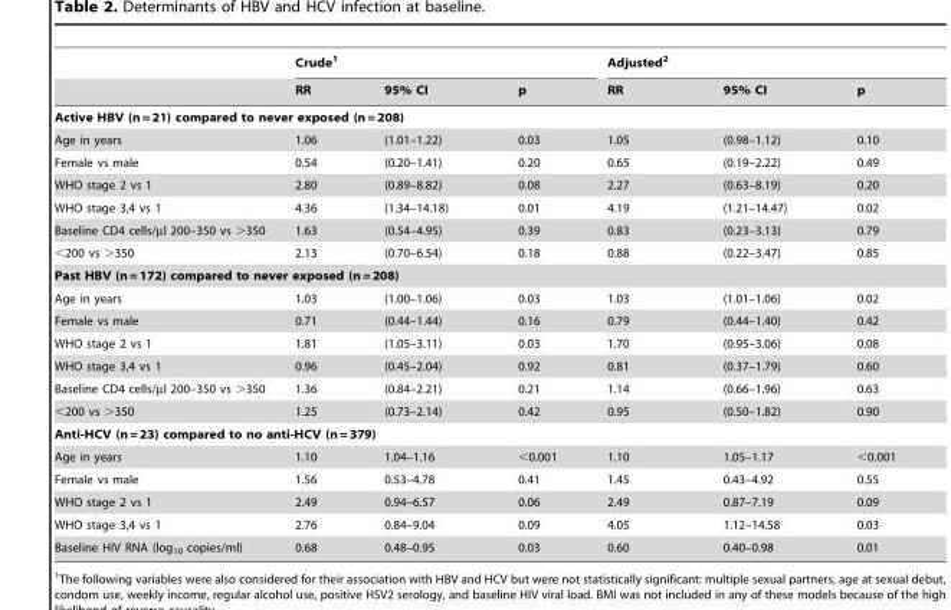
<table><thead><tr><td rowspan="2"></td><td colspan="3">Crude<sup>1</sup></td><td colspan="3">Adjusted<sup>2</sup></td></tr><tr><td>RR</td><td>95% CI</td><td>p</td><td>RR</td><td>95% CI</td><td>p</td></tr></thead><tbody><tr><td colspan="7">Active HBV (n = 21) compared to never exposed (n = 208)</td></tr><tr><td>Age in years</td><td>1.06</td><td>(1.01–1.22)</td><td>0.03</td><td>1.05</td><td>(0.98–1.12)</td><td>0.10</td></tr><tr><td>Female vs male</td><td>0.54</td><td>(0.20–1.41)</td><td>0.20</td><td>0.65</td><td>(0.19–2.22)</td><td>0.49</td></tr><tr><td>WHO stage 2 vs 1</td><td>2.80</td><td>(0.89–8.82)</td><td>0.08</td><td>2.27</td><td>(0.63–8.19)</td><td>0.20</td></tr><tr><td>WHO stage 3,4 vs 1</td><td>4.36</td><td>(1.34–14.18)</td><td>0.01</td><td>4.19</td><td>(1.21–14.47)</td><td>0.02</td></tr><tr><td>Baseline CD4 cells/µl 200–350 vs &gt;350</td><td>1.63</td><td>(0.54–4.95)</td><td>0.39</td><td>0.83</td><td>(0.23–3.13)</td><td>0.79</td></tr><tr><td>&lt;200 vs &gt;350</td><td>2.13</td><td>(0.70–6.54)</td><td>0.18</td><td>0.88</td><td>(0.22–3.47)</td><td>0.85</td></tr><tr><td colspan="7">Past HBV (n = 172) compared to never exposed (n = 208)</td></tr><tr><td>Age in years</td><td>1.03</td><td>(1.00–1.06)</td><td>0.03</td><td>1.03</td><td>(1.01–1.06)</td><td>0.02</td></tr><tr><td>Female vs male</td><td>0.71</td><td>(0.44–1.44)</td><td>0.16</td><td>0.79</td><td>(0.44–1.40)</td><td>0.42</td></tr><tr><td>WHO stage 2 vs 1</td><td>1.81</td><td>(1.05–3.11)</td><td>0.03</td><td>1.70</td><td>(0.95–3.06)</td><td>0.08</td></tr><tr><td>WHO stage 3,4 vs 1</td><td>0.96</td><td>(0.45–2.04)</td><td>0.92</td><td>0.81</td><td>(0.37–1.79)</td><td>0.60</td></tr><tr><td>Baseline CD4 cells/µl 200–350 vs &gt;350</td><td>1.36</td><td>(0.84–2.21)</td><td>0.21</td><td>1.14</td><td>(0.66–1.96)</td><td>0.63</td></tr><tr><td>&lt;200 vs &gt;350</td><td>1.25</td><td>(0.73–2.14)</td><td>0.42</td><td>0.95</td><td>(0.50–1.82)</td><td>0.90</td></tr><tr><td colspan="7">Anti-HCV (n = 23) compared to no anti-HCV (n = 379)</td></tr><tr><td>Age in years</td><td>1.10</td><td>1.04–1.16</td><td>&lt;0.001</td><td>1.10</td><td>1.05–1.17</td><td>&lt;0.001</td></tr><tr><td>Female vs male</td><td>1.56</td><td>0.53–4.78</td><td>0.41</td><td>1.45</td><td>0.43–4.92</td><td>0.55</td></tr><tr><td>WHO stage 2 vs 1</td><td>2.49</td><td>0.94–6.57</td><td>0.06</td><td>2.49</td><td>0.87–7.19</td><td>0.09</td></tr><tr><td>WHO stage 3,4 vs 1</td><td>2.76</td><td>0.84–9.04</td><td>0.09</td><td>4.05</td><td>1.12–14.58</td><td>0.03</td></tr><tr><td>Baseline HIV RNA (log<sub>10</sub> copies/ml)</td><td>0.68</td><td>0.48–0.95</td><td>0.03</td><td>0.60</td><td>0.40–0.98</td><td>0.01</td></tr></tbody></table>